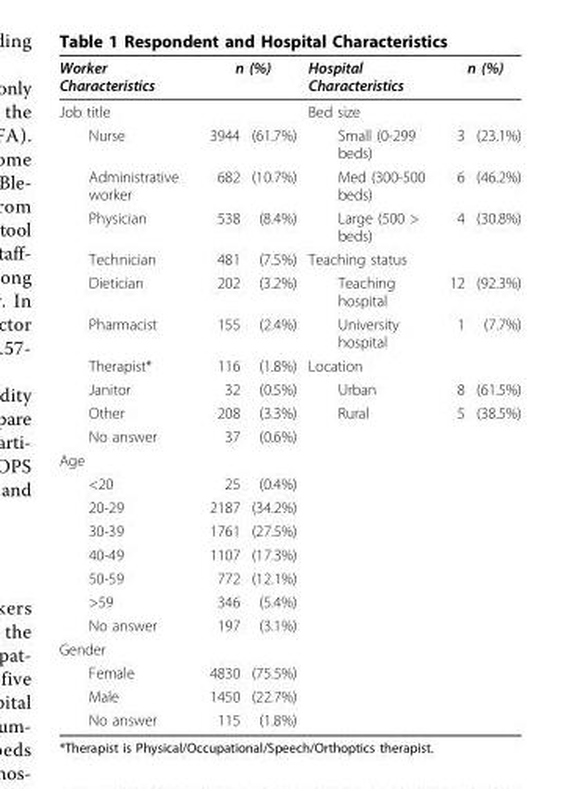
<table><thead><tr><td rowspan="2">Worker Characteristics Job title</td><td colspan="2">n (%)</td><td rowspan="2">Hospital Characteristics Bed size</td><td colspan="2">n (%)</td></tr><tr><td></td><td></td><td></td><td></td></tr></thead><tbody><tr><td>Nurse</td><td>3944</td><td>(61.7%)</td><td>Small (0-299 beds)</td><td>3</td><td>(23.1%)</td></tr><tr><td>Administrative worker</td><td>682</td><td>(10.7%)</td><td>Med (300-500 beds)</td><td>6</td><td>(46.2%)</td></tr><tr><td>Physician</td><td>538</td><td>(8.4%)</td><td>Large (500 &gt; beds)</td><td>4</td><td>(30.8%)</td></tr><tr><td>Technician</td><td>481</td><td>(7.5%)</td><td>Teaching status</td><td></td><td></td></tr><tr><td>Dietician</td><td>202</td><td>(3.2%)</td><td>Teaching hospital</td><td>12</td><td>(92.3%)</td></tr><tr><td>Pharmacist</td><td>155</td><td>(2.4%)</td><td>University hospital</td><td>1</td><td>(7.7%)</td></tr><tr><td>Therapist*</td><td>116</td><td>(1.8%)</td><td>Location</td><td></td><td></td></tr><tr><td>Janitor</td><td>32</td><td>(0.5%)</td><td>Urban</td><td>8</td><td>(61.5%)</td></tr><tr><td>Other</td><td>208</td><td>(3.3%)</td><td>Rural</td><td>5</td><td>(38.5%)</td></tr><tr><td>No answer</td><td>37</td><td>(0.6%)</td><td></td><td></td><td></td></tr><tr><td colspan="6">Age</td></tr><tr><td>&lt;20</td><td>25</td><td>(0.4%)</td><td></td><td></td><td></td></tr><tr><td>20-29</td><td>2187</td><td>(34.2%)</td><td></td><td></td><td></td></tr><tr><td>30-39</td><td>1761</td><td>(27.5%)</td><td></td><td></td><td></td></tr><tr><td>40-49</td><td>1107</td><td>(17.3%)</td><td></td><td></td><td></td></tr><tr><td>50-59</td><td>772</td><td>(12.1%)</td><td></td><td></td><td></td></tr><tr><td>&gt;59</td><td>346</td><td>(5.4%)</td><td></td><td></td><td></td></tr><tr><td>No answer</td><td>197</td><td>(3.1%)</td><td></td><td></td><td></td></tr><tr><td colspan="6">Gender</td></tr><tr><td>Female</td><td>4830</td><td>(75.5%)</td><td></td><td></td><td></td></tr><tr><td>Male</td><td>1450</td><td>(22.7%)</td><td></td><td></td><td></td></tr><tr><td>No answer</td><td>115</td><td>(1.8%)</td><td></td><td></td><td></td></tr></tbody></table>